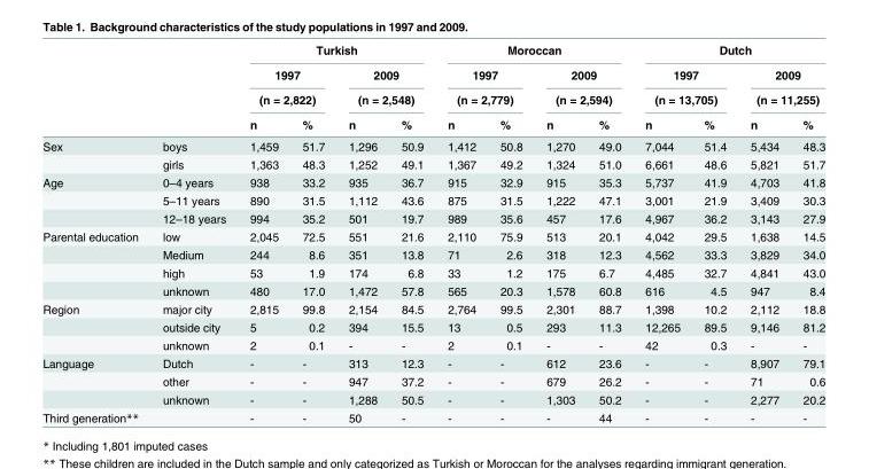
<table><thead><tr><td rowspan="4"></td><td rowspan="4"></td><td colspan="4">Turkish</td><td colspan="4">Moroccan</td><td colspan="4">Dutch</td></tr><tr><td rowspan="2" colspan="2">1997 (n = 2,822)</td><td rowspan="2" colspan="2">2009 (n = 2,548)</td><td rowspan="2" colspan="2">1997 (n = 2,779)</td><td rowspan="2" colspan="2">2009 (n = 2,594)</td><td rowspan="2" colspan="2">1997 (n = 13,705)</td><td rowspan="2" colspan="2">2009 (n = 11,255)</td></tr><tr></tr><tr><td>n</td><td>%</td><td>n</td><td>%</td><td>n</td><td>%</td><td>n</td><td>%</td><td>n</td><td>%</td><td>n</td><td>%</td></tr></thead><tbody><tr><td rowspan="2">Sex</td><td>boys</td><td>1,459</td><td>51.7</td><td>1,296</td><td>50.9</td><td>1,412</td><td>50.8</td><td>1,270</td><td>49.0</td><td>7,044</td><td>51.4</td><td>5,434</td><td>48.3</td></tr><tr><td>girls</td><td>1,363</td><td>48.3</td><td>1,252</td><td>49.1</td><td>1,367</td><td>49.2</td><td>1,324</td><td>51.0</td><td>6,661</td><td>48.6</td><td>5,821</td><td>51.7</td></tr><tr><td rowspan="3">Age</td><td>0–4 years</td><td>938</td><td>33.2</td><td>935</td><td>36.7</td><td>915</td><td>32.9</td><td>915</td><td>35.3</td><td>5,737</td><td>41.9</td><td>4,703</td><td>41.8</td></tr><tr><td>5–11 years</td><td>890</td><td>31.5</td><td>1,112</td><td>43.6</td><td>875</td><td>31.5</td><td>1,222</td><td>47.1</td><td>3,001</td><td>21.9</td><td>3,409</td><td>30.3</td></tr><tr><td>12–18 years</td><td>994</td><td>35.2</td><td>501</td><td>19.7</td><td>989</td><td>35.6</td><td>457</td><td>17.6</td><td>4,967</td><td>36.2</td><td>3,143</td><td>27.9</td></tr><tr><td rowspan="4">Parental education</td><td>low</td><td>2,045</td><td>72.5</td><td>551</td><td>21.6</td><td>2,110</td><td>75.9</td><td>513</td><td>20.1</td><td>4,042</td><td>29.5</td><td>1,638</td><td>14.5</td></tr><tr><td>Medium</td><td>244</td><td>8.6</td><td>351</td><td>13.8</td><td>71</td><td>2.6</td><td>318</td><td>12.3</td><td>4,562</td><td>33.3</td><td>3,829</td><td>34.0</td></tr><tr><td>high</td><td>53</td><td>1.9</td><td>174</td><td>6.8</td><td>33</td><td>1.2</td><td>175</td><td>6.7</td><td>4,485</td><td>32.7</td><td>4,841</td><td>43.0</td></tr><tr><td>unknown</td><td>480</td><td>17.0</td><td>1,472</td><td>57.8</td><td>565</td><td>20.3</td><td>1,578</td><td>60.8</td><td>616</td><td>4.5</td><td>947</td><td>8.4</td></tr><tr><td rowspan="3">Region</td><td>major city</td><td>2,815</td><td>99.8</td><td>2,154</td><td>84.5</td><td>2,764</td><td>99.5</td><td>2,301</td><td>88.7</td><td>1,398</td><td>10.2</td><td>2,112</td><td>18.8</td></tr><tr><td>outside city</td><td>5</td><td>0.2</td><td>394</td><td>15.5</td><td>13</td><td>0.5</td><td>293</td><td>11.3</td><td>12,265</td><td>89.5</td><td>9,146</td><td>81.2</td></tr><tr><td>unknown</td><td>2</td><td>0.1</td><td>-</td><td>-</td><td>2</td><td>0.1</td><td>-</td><td>-</td><td>42</td><td>0.3</td><td>-</td><td>-</td></tr><tr><td rowspan="3">Language</td><td>Dutch</td><td>-</td><td>-</td><td>313</td><td>12.3</td><td>-</td><td>-</td><td>612</td><td>23.6</td><td>-</td><td>-</td><td>8,907</td><td>79.1</td></tr><tr><td>other</td><td>-</td><td>-</td><td>947</td><td>37.2</td><td>-</td><td>-</td><td>679</td><td>26.2</td><td>-</td><td>-</td><td>71</td><td>0.6</td></tr><tr><td>unknown</td><td>-</td><td>-</td><td>1,288</td><td>50.5</td><td>-</td><td>-</td><td>1,303</td><td>50.2</td><td>-</td><td>-</td><td>2,277</td><td>20.2</td></tr><tr><td>Third generation**</td><td></td><td>-</td><td>-</td><td>50</td><td>-</td><td>-</td><td>-</td><td>-</td><td>44</td><td>-</td><td>-</td><td>-</td><td>-</td></tr></tbody></table>